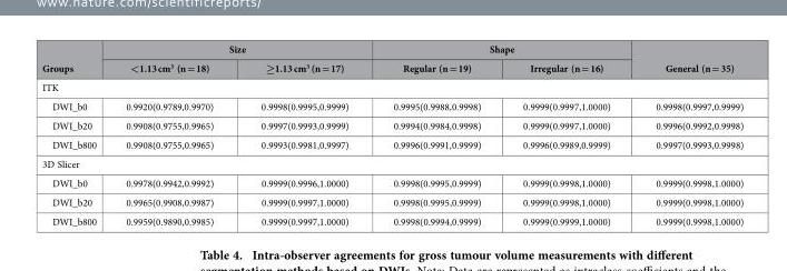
<table><thead><tr><td rowspan="2">Groups</td><td colspan="2">Size</td><td colspan="2">Shape</td><td rowspan="2">General (n = 35)</td></tr><tr><td>&lt;1.13 cm<sup>3</sup> (n = 18)</td><td>≥1.13 cm<sup>3</sup> (n = 17)</td><td>Regular (n = 19)</td><td>Irregular (n = 16)</td></tr></thead><tbody><tr><td colspan="6">ITK</td></tr><tr><td>DWI_b0</td><td>0.9920(0.9789,0.9970)</td><td>0.9998(0.9995,0.9999)</td><td>0.9995(0.9988,0.9998)</td><td>0.9999(0.9997,1.0000)</td><td>0.9998(0.9997,0.9999)</td></tr><tr><td>DWI_b20</td><td>0.9908(0.9755,0.9965)</td><td>0.9997(0.9993,0.9999)</td><td>0.9994(0.9984,0.9998)</td><td>0.9999(0.9997,1.0000)</td><td>0.9996(0.9992,0.9998)</td></tr><tr><td>DWI_b800</td><td>0.9908(0.9755,0.9965)</td><td>0.9993(0.9981,0.9997)</td><td>0.9996(0.9991,0.9999)</td><td>0.9996(0.9989,0.9999)</td><td>0.9997(0.9993,0.9998)</td></tr><tr><td colspan="6">3D Slicer</td></tr><tr><td>DWI_b0</td><td>0.9978(0.9942,0.9992)</td><td>0.9999(0.9996,1.0000)</td><td>0.9998(0.9995,0.9999)</td><td>0.9999(0.9998,1.0000)</td><td>0.9999(0.9998,1.0000)</td></tr><tr><td>DWI_b20</td><td>0.9965(0.9908,0.9987)</td><td>0.9999(0.9997,1.0000)</td><td>0.9998(0.9995,0.9999)</td><td>0.9999(0.9998,1.0000)</td><td>0.9999(0.9998,1.0000)</td></tr><tr><td>DWI_b800</td><td>0.9959(0.9890,0.9985)</td><td>0.9999(0.9997,1.0000)</td><td>0.9998(0.9994,0.9999)</td><td>0.9999(0.9999,1.0000)</td><td>0.9999(0.9998,1.0000)</td></tr></tbody></table>